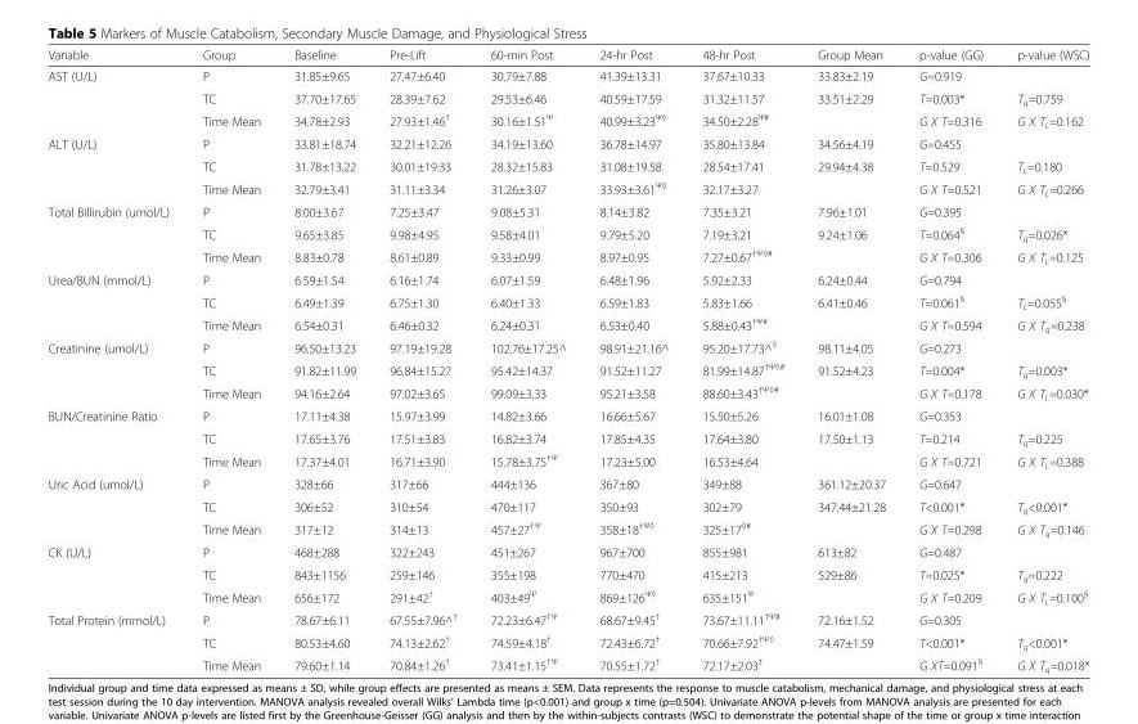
<table><thead><tr><td>Variable</td><td>Group</td><td>Baseline</td><td>Pre-Lift</td><td>60-min Post</td><td>24-hr Post</td><td>48-hr Post</td><td>Group Mean</td><td>p-value (GG)</td><td>p-value (WSC)</td></tr></thead><tbody><tr><td rowspan="3">AST (U/L)</td><td>P</td><td>31.85±9.65</td><td>27.47±6.40</td><td>30.79±7.88</td><td>41.39±13.31</td><td>37.67±10.33</td><td>33.83±2.19</td><td>G=0.919</td><td></td></tr><tr><td>TC</td><td>37.70±17.65</td><td>28.39±7.62</td><td>29.53±6.46</td><td>40.59±17.59</td><td>31.32±11.57</td><td>33.51±2.29</td><td>T=0.003*</td><td>T<sub>q</sub>=0.759</td></tr><tr><td>Time Mean</td><td>34.78±2.93</td><td>27.93±1.46<sup>†</sup></td><td>30.16±1.51<sup>Ψ</sup></td><td>40.99±3.23<sup>Ψ◊</sup></td><td>34.50±2.28<sup>Ψ#</sup></td><td></td><td>G X T=0.316</td><td>G X T<sub>L</sub>=0.162</td></tr><tr><td rowspan="3">ALT (U/L)</td><td>P</td><td>33.81±18.74</td><td>32.21±12.26</td><td>34.19±13.60</td><td>36.78±14.97</td><td>35.80±13.84</td><td>34.56±4.19</td><td>G=0.455</td><td></td></tr><tr><td>TC</td><td>31.78±13.22</td><td>30.01±19.33</td><td>28.32±15.83</td><td>31.08±19.58</td><td>28.54±17.41</td><td>29.94±4.38</td><td>T=0.529</td><td>T<sub>L</sub>=0.180</td></tr><tr><td>Time Mean</td><td>32.79±3.41</td><td>31.11±3.34</td><td>31.26±3.07</td><td>33.93±3.61<sup>Ψ◊</sup></td><td>32.17±3.27</td><td></td><td>G X T=0.521</td><td>G X T<sub>L</sub>=0.266</td></tr><tr><td rowspan="3">Total Billirubin (umol/L)</td><td>P</td><td>8.00±3.67</td><td>7.25±3.47</td><td>9.08±5.31</td><td>8.14±3.82</td><td>7.35±3.21</td><td>7.96±1.01</td><td>G=0.395</td><td></td></tr><tr><td>TC</td><td>9.65±3.85</td><td>9.98±4.95</td><td>9.58±4.01</td><td>9.79±5.20</td><td>7.19±3.21</td><td>9.24±1.06</td><td>T=0.064<sup>§</sup></td><td>T<sub>q</sub>=0.026*</td></tr><tr><td>Time Mean</td><td>8.83±0.78</td><td>8.61±0.89</td><td>9.33±0.99</td><td>8.97±0.95</td><td>7.27±0.67<sup>†Ψ◊#</sup></td><td></td><td>G X T=0.306</td><td>G X T<sub>L</sub>=0.125</td></tr><tr><td rowspan="3">Urea/BUN (mmol/L)</td><td>P</td><td>6.59±1.54</td><td>6.16±1.74</td><td>6.07±1.59</td><td>6.48±1.96</td><td>5.92±2.33</td><td>6.24±0.44</td><td>G=0.794</td><td></td></tr><tr><td>TC</td><td>6.49±1.39</td><td>6.75±1.30</td><td>6.40±1.33</td><td>6.59±1.83</td><td>5.83±1.66</td><td>6.41±0.46</td><td>T=0.061<sup>§</sup></td><td>T<sub>L</sub>=0.055<sup>§</sup></td></tr><tr><td>Time Mean</td><td>6.54±0.31</td><td>6.46±0.32</td><td>6.24±0.31</td><td>6.53±0.40</td><td>5.88±0.43<sup>†Ψ#</sup></td><td></td><td>G X T=0.594</td><td>G X T<sub>q</sub>=0.238</td></tr><tr><td rowspan="3">Creatinine (umol/L)</td><td>P</td><td>96.50±13.23</td><td>97.19±19.28</td><td>102.76±17.25^</td><td>98.91±21.16^</td><td>95.20±17.73^◊</td><td>98.11±4.05</td><td>G=0.273</td><td></td></tr><tr><td>TC</td><td>91.82±11.99</td><td>96.84±15.27</td><td>95.42±14.37</td><td>91.52±11.27</td><td>81.99±14.87<sup>†Ψ◊#</sup></td><td>91.52±4.23</td><td>T=0.004*</td><td>T<sub>q</sub>=0.003*</td></tr><tr><td>Time Mean</td><td>94.16±2.64</td><td>97.02±3.65</td><td>99.09±3.33</td><td>95.21±3.58</td><td>88.60±3.43<sup>†Ψ◊#</sup></td><td></td><td>G X T=0.178</td><td>G X T<sub>L</sub>=0.030*</td></tr><tr><td rowspan="3">BUN/Creatinine Ratio</td><td>P</td><td>17.11±4.38</td><td>15.97±3.99</td><td>14.82±3.66</td><td>16.66±5.67</td><td>15.50±5.26</td><td>16.01±1.08</td><td>G=0.353</td><td></td></tr><tr><td>TC</td><td>17.65±3.76</td><td>17.51±3.83</td><td>16.82±3.74</td><td>17.85±4.35</td><td>17.64±3.80</td><td>17.50±1.13</td><td>T=0.214</td><td>T<sub>q</sub>=0.225</td></tr><tr><td>Time Mean</td><td>17.37±4.01</td><td>16.71±3.90</td><td>15.78±3.75<sup>†Ψ</sup></td><td>17.23±5.00</td><td>16.53±4.64</td><td></td><td>G X T=0.721</td><td>G X T<sub>L</sub>=0.388</td></tr><tr><td rowspan="3">Uric Acid (umol/L)</td><td>P</td><td>328±66</td><td>317±66</td><td>444±136</td><td>367±80</td><td>349±88</td><td>361.12±20.37</td><td>G=0.647</td><td></td></tr><tr><td>TC</td><td>306±52</td><td>310±54</td><td>470±117</td><td>350±93</td><td>302±79</td><td>347.44±21.28</td><td>T&lt;0.001*</td><td>T<sub>q</sub>&lt;0.001*</td></tr><tr><td>Time Mean</td><td>317±12</td><td>314±13</td><td>457±27<sup>†Ψ</sup></td><td>358±18<sup>†Ψ◊</sup></td><td>325±17<sup>◊#</sup></td><td></td><td>G X T=0.298</td><td>G X T<sub>q</sub>=0.146</td></tr><tr><td rowspan="3">CK (U/L)</td><td>P</td><td>468±288</td><td>322±243</td><td>451±267</td><td>967±700</td><td>855±981</td><td>613±82</td><td>G=0.487</td><td></td></tr><tr><td>TC</td><td>843±1156</td><td>259±146</td><td>355±198</td><td>770±470</td><td>415±213</td><td>529±86</td><td>T=0.025*</td><td>T<sub>q</sub>=0.222</td></tr><tr><td>Time Mean</td><td>656±172</td><td>291±42<sup>†</sup></td><td>403±49<sup>Ψ</sup></td><td>869±126<sup>Ψ◊</sup></td><td>635±151<sup>Ψ</sup></td><td></td><td>G X T=0.209</td><td>G X T<sub>L</sub>=0.100<sup>§</sup></td></tr><tr><td rowspan="3">Total Protein (mmol/L)</td><td>P</td><td>78.67±6.11</td><td>67.55±7.96^†</td><td>72.23±6.47<sup>†Ψ</sup></td><td>68.67±9.45<sup>†</sup></td><td>73.67±11.11<sup>†Ψ#</sup></td><td>72.16±1.52</td><td>G=0.305</td><td></td></tr><tr><td>TC</td><td>80.53±4.60</td><td>74.13±2.62<sup>†</sup></td><td>74.59±4.18<sup>†</sup></td><td>72.43±6.72<sup>†</sup></td><td>70.66±7.92<sup>†Ψ◊</sup></td><td>74.47±1.59</td><td>T&lt;0.001*</td><td>T<sub>q</sub>&lt;0.001*</td></tr><tr><td>Time Mean</td><td>79.60±1.14</td><td>70.84±1.26<sup>†</sup></td><td>73.41±1.15<sup>†Ψ</sup></td><td>70.55±1.72<sup>†</sup></td><td>72.17±2.03<sup>†</sup></td><td></td><td>G XT=0.091<sup>§</sup></td><td>G X T<sub>q</sub>=0.018*</td></tr></tbody></table>